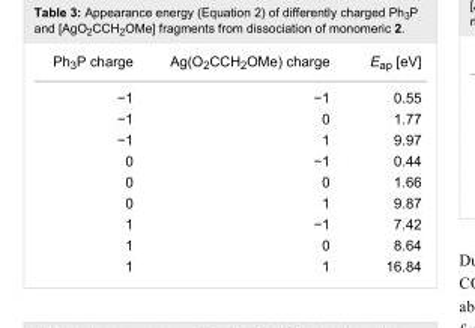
<table><tbody><tr><td>Ph<sub>3</sub>P charge</td><td>Ag(O<sub>2</sub>CCH<sub>2</sub>OMe) charge</td><td>E<sub>ap</sub> [eV]</td></tr><tr><td>−1</td><td>−1</td><td>0.55</td></tr><tr><td>−1</td><td>0</td><td>1.77</td></tr><tr><td>−1</td><td>1</td><td>9.97</td></tr><tr><td>0</td><td>−1</td><td>0.44</td></tr><tr><td>0</td><td>0</td><td>1.66</td></tr><tr><td>0</td><td>1</td><td>9.87</td></tr><tr><td>1</td><td>−1</td><td>7.42</td></tr><tr><td>1</td><td>0</td><td>8.64</td></tr><tr><td>1</td><td>1</td><td>16.84</td></tr></tbody></table>